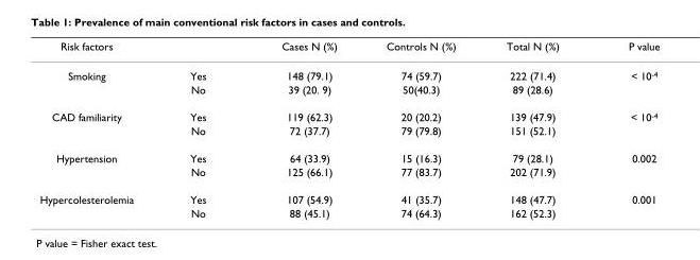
<table><thead><tr><td>Risk factors</td><td></td><td>Cases N (%)</td><td>Controls N (%)</td><td>Total N (%)</td><td>P value</td></tr></thead><tbody><tr><td rowspan="2">Smoking</td><td>Yes</td><td>148 (79.1)</td><td>74 (59.7)</td><td>222 (71.4)</td><td>&lt; 10<sup>-4</sup></td></tr><tr><td>No</td><td>39 (20. 9)</td><td>50(40.3)</td><td>89 (28.6)</td><td></td></tr><tr><td rowspan="2">CAD familiarity</td><td>Yes</td><td>119 (62.3)</td><td>20 (20.2)</td><td>139 (47.9)</td><td>&lt; 10<sup>-4</sup></td></tr><tr><td>No</td><td>72 (37.7)</td><td>79 (79.8)</td><td>151 (52.1)</td><td></td></tr><tr><td rowspan="2">Hypertension</td><td>Yes</td><td>64 (33.9)</td><td>15 (16.3)</td><td>79 (28.1)</td><td>0.002</td></tr><tr><td>No</td><td>125 (66.1)</td><td>77 (83.7)</td><td>202 (71.9)</td><td></td></tr><tr><td rowspan="2">Hypercolesterolemia</td><td>Yes</td><td>107 (54.9)</td><td>41 (35.7)</td><td>148 (47.7)</td><td>0.001</td></tr><tr><td>No</td><td>88 (45.1)</td><td>74 (64.3)</td><td>162 (52.3)</td><td></td></tr></tbody></table>